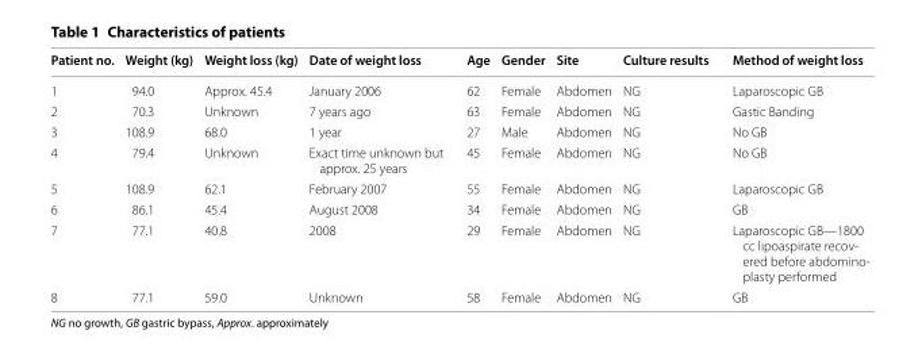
<table><thead><tr><td>Patient no.</td><td>Weight (kg)</td><td>Weight loss (kg)</td><td>Date of weight loss</td><td>Age</td><td>Gender</td><td>Site</td><td>Culture results</td><td>Method of weight loss</td></tr></thead><tbody><tr><td>1</td><td>94.0</td><td>Approx. 45.4</td><td>January 2006</td><td>62</td><td>Female</td><td>Abdomen</td><td>NG</td><td>Laparoscopic GB</td></tr><tr><td>2</td><td>70.3</td><td>Unknown</td><td>7 years ago</td><td>63</td><td>Female</td><td>Abdomen</td><td>NG</td><td>Gastic Banding</td></tr><tr><td>3</td><td>108.9</td><td>68.0</td><td>1 year</td><td>27</td><td>Male</td><td>Abdomen</td><td>NG</td><td>No GB</td></tr><tr><td>4</td><td>79.4</td><td>Unknown</td><td>Exact time unknown but approx. 25 years</td><td>45</td><td>Female</td><td>Abdomen</td><td>NG</td><td>No GB</td></tr><tr><td>5</td><td>108.9</td><td>62.1</td><td>February 2007</td><td>55</td><td>Female</td><td>Abdomen</td><td>NG</td><td>Laparoscopic GB</td></tr><tr><td>6</td><td>86.1</td><td>45.4</td><td>August 2008</td><td>34</td><td>Female</td><td>Abdomen</td><td>NG</td><td>GB</td></tr><tr><td>7</td><td>77.1</td><td>40.8</td><td>2008</td><td>29</td><td>Female</td><td>Abdomen</td><td>NG</td><td>Laparoscopic GB—1800 cc lipoaspirate recov- ered before abdomino- plasty performed</td></tr><tr><td>8</td><td>77.1</td><td>59.0</td><td>Unknown</td><td>58</td><td>Female</td><td>Abdomen</td><td>NG</td><td>GB</td></tr></tbody></table>